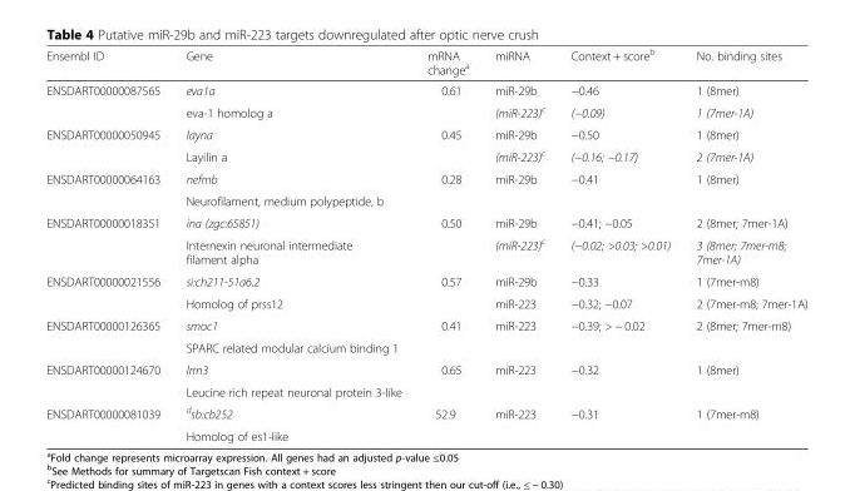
<table><thead><tr><td>Ensembl ID</td><td>Gene</td><td>mRNA change<sup>a</sup></td><td>miRNA</td><td>Context + score<sup>b</sup></td><td>No. binding sites</td></tr></thead><tbody><tr><td rowspan="2">ENSDART00000087565</td><td>eva1a</td><td rowspan="2">0.61</td><td>miR-29b</td><td>−0.46</td><td>1 (8mer)</td></tr><tr><td>eva-1 homolog a</td><td>(miR-223)<sup>c</sup></td><td>(−0.09)</td><td>1 (7mer-1A)</td></tr><tr><td rowspan="2">ENSDART00000050945</td><td>layna</td><td rowspan="2">0.45</td><td>miR-29b</td><td>−0.50</td><td>1 (8mer)</td></tr><tr><td>Layilin a</td><td>(miR-223)<sup>c</sup></td><td>(−0.16; −0.17)</td><td>2 (7mer-1A)</td></tr><tr><td rowspan="2">ENSDART00000064163</td><td>nefmb</td><td rowspan="2">0.28</td><td rowspan="2">miR-29b</td><td rowspan="2">−0.41</td><td rowspan="2">1 (8mer)</td></tr><tr><td>Neurofilament, medium polypeptide, b</td></tr><tr><td rowspan="2">ENSDART00000018351</td><td>ina (zgc:65851)</td><td rowspan="2">0.50</td><td>miR-29b</td><td>−0.41; −0.05</td><td>2 (8mer; 7mer-1A)</td></tr><tr><td>Internexin neuronal intermediate filament alpha</td><td>(miR-223)<sup>c</sup></td><td>(−0.02; &gt;0.03; &gt;0.01)</td><td>3 (8mer; 7mer-m8; 7mer-1A)</td></tr><tr><td rowspan="2">ENSDART00000021556</td><td>si:ch211-51a6.2</td><td rowspan="2">0.57</td><td>miR-29b</td><td>−0.33</td><td>1 (7mer-m8)</td></tr><tr><td>Homolog of prss12</td><td>miR-223</td><td>−0.32; −0.07</td><td>2 (7mer-m8; 7mer-1A)</td></tr><tr><td rowspan="2">ENSDART00000126365</td><td>smoc1</td><td rowspan="2">0.41</td><td rowspan="2">miR-223</td><td rowspan="2">−0.39; &gt; − 0.02</td><td rowspan="2">2 (8mer; 7mer-m8)</td></tr><tr><td>SPARC related modular calcium binding 1</td></tr><tr><td rowspan="2">ENSDART00000124670</td><td>lrrn3</td><td rowspan="2">0.65</td><td rowspan="2">miR-223</td><td rowspan="2">−0.32</td><td rowspan="2">1 (8mer)</td></tr><tr><td>Leucine rich repeat neuronal protein 3-like</td></tr><tr><td rowspan="2">ENSDART00000081039</td><td><sup>d</sup>sb:cb252</td><td rowspan="2">52.9</td><td rowspan="2">miR-223</td><td rowspan="2">−0.31</td><td rowspan="2">1 (7mer-m8)</td></tr><tr><td>Homolog of es1-like</td></tr></tbody></table>